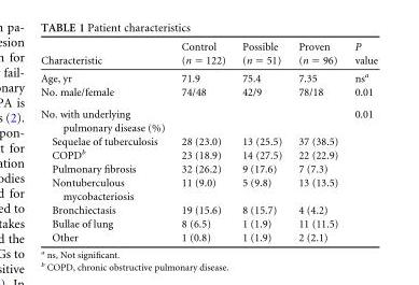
<table><thead><tr><td>Characteristic</td><td>Control (n = 122)</td><td>Possible (n = 51)</td><td>Proven (n = 96)</td><td>P value</td></tr></thead><tbody><tr><td>Age, yr</td><td>71.9</td><td>75.4</td><td>7.35</td><td>ns<sup>a</sup></td></tr><tr><td>No. male/female</td><td>74/48</td><td>42/9</td><td>78/18</td><td>0.01</td></tr><tr><td>No. with underlying pulmonary disease (%)</td><td></td><td></td><td></td><td>0.01</td></tr><tr><td>Sequelae of tuberculosis</td><td>28 (23.0)</td><td>13 (25.5)</td><td>37 (38.5)</td><td></td></tr><tr><td>COPD<sup>b</sup></td><td>23 (18.9)</td><td>14 (27.5)</td><td>22 (22.9)</td><td></td></tr><tr><td>Pulmonary fibrosis</td><td>32 (26.2)</td><td>9 (17.6)</td><td>7 (7.3)</td><td></td></tr><tr><td>Nontuberculous mycobacteriosis</td><td>11 (9.0)</td><td>5 (9.8)</td><td>13 (13.5)</td><td></td></tr><tr><td>Bronchiectasis</td><td>19 (15.6)</td><td>8 (15.7)</td><td>4 (4.2)</td><td></td></tr><tr><td>Bullae of lung</td><td>8 (6.5)</td><td>1 (1.9)</td><td>11 (11.5)</td><td></td></tr><tr><td>Other</td><td>1 (0.8)</td><td>1 (1.9)</td><td>2 (2.1)</td><td></td></tr></tbody></table>